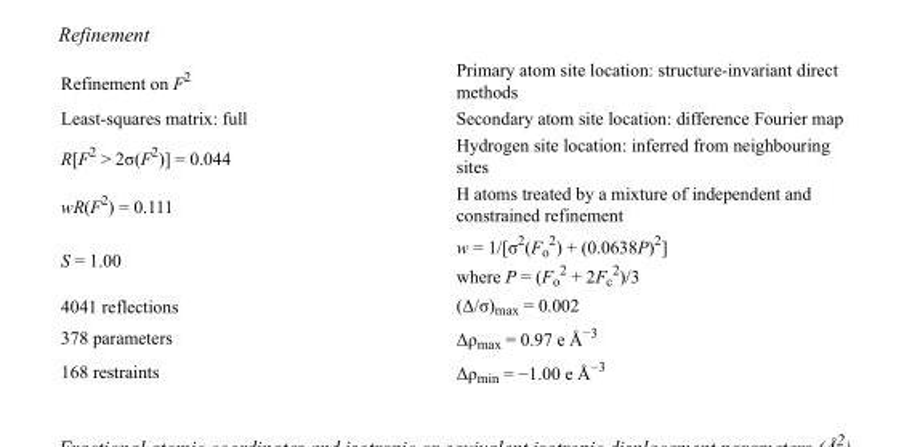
<table><tbody><tr><td>Refinement on F<sup>2</sup></td><td>Primary atom site location: structure-invariant direct methods</td></tr><tr><td>Least-squares matrix: full</td><td>Secondary atom site location: difference Fourier map</td></tr><tr><td>R[F<sup>2</sup> &gt; 2σ(F<sup>2</sup>)] = 0.044</td><td>Hydrogen site location: inferred from neighbouring sites</td></tr><tr><td>wR(F<sup>2</sup>) = 0.111</td><td>H atoms treated by a mixture of independent and constrained refinement</td></tr><tr><td>S = 1.00</td><td>w = 1/[σ<sup>2</sup>(F<sub>o</sub> <sup>2</sup>) + (0.0638P)<sup>2</sup>] where P = (F<sub>o</sub> <sup>2</sup> + 2F<sub>c</sub> <sup>2</sup>)/3</td></tr><tr><td>4041 reflections</td><td>(Δ/σ)<sub>max</sub> = 0.002</td></tr><tr><td>378 parameters</td><td>Δρ<sub>max</sub> = 0.97 e Å<sup>−3</sup></td></tr><tr><td>168 restraints</td><td>Δρ<sub>min</sub> = −1.00 e Å<sup>−3</sup></td></tr></tbody></table>